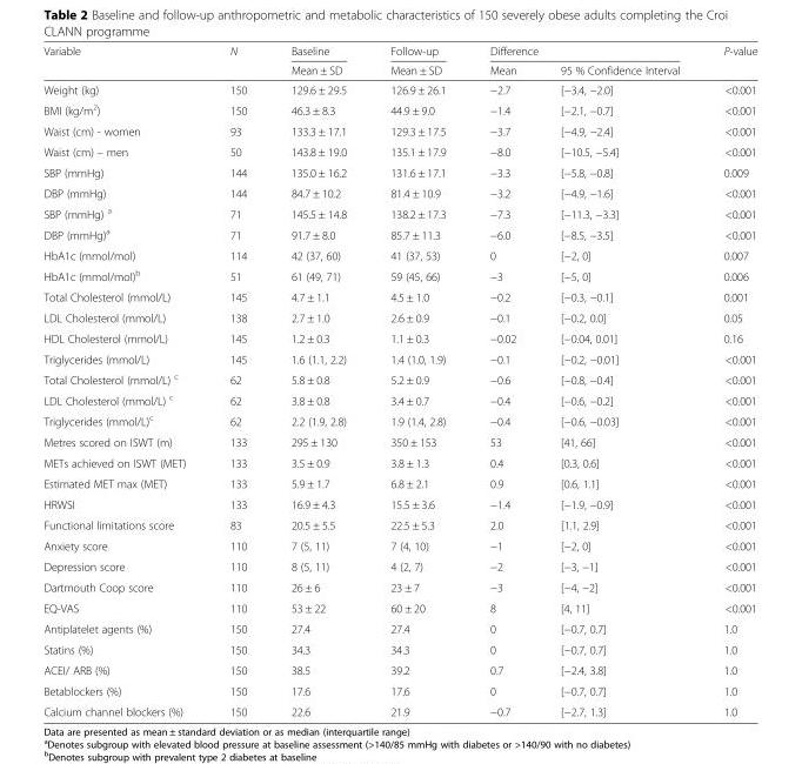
<table><thead><tr><td rowspan="2">Variable</td><td rowspan="2">N</td><td rowspan="2">Baseline Mean ± SD</td><td rowspan="2">Follow-up Mean ± SD</td><td colspan="2">Difference</td><td rowspan="2">P-value</td></tr><tr><td>Mean</td><td>95 % Confidence Interval</td></tr></thead><tbody><tr><td>Weight (kg)</td><td>150</td><td>129.6 ± 29.5</td><td>126.9 ± 26.1</td><td>−2.7</td><td>[−3.4, −2.0]</td><td>&lt;0.001</td></tr><tr><td>BMI (kg/m<sup>2</sup>)</td><td>150</td><td>46.3 ± 8.3</td><td>44.9 ± 9.0</td><td>−1.4</td><td>[−2.1, −0.7]</td><td>&lt;0.001</td></tr><tr><td>Waist (cm) - women</td><td>93</td><td>133.3 ± 17.1</td><td>129.3 ± 17.5</td><td>−3.7</td><td>[−4.9, −2.4]</td><td>&lt;0.001</td></tr><tr><td>Waist (cm) – men</td><td>50</td><td>143.8 ± 19.0</td><td>135.1 ± 17.9</td><td>−8.0</td><td>[−10.5, −5.4]</td><td>&lt;0.001</td></tr><tr><td>SBP (mmHg)</td><td>144</td><td>135.0 ± 16.2</td><td>131.6 ± 17.1</td><td>−3.3</td><td>[−5.8, −0.8]</td><td>0.009</td></tr><tr><td>DBP (mmHg)</td><td>144</td><td>84.7 ± 10.2</td><td>81.4 ± 10.9</td><td>−3.2</td><td>[−4.9, −1.6]</td><td>&lt;0.001</td></tr><tr><td>SBP (mmHg) <sup>a</sup></td><td>71</td><td>145.5 ± 14.8</td><td>138.2 ± 17.3</td><td>−7.3</td><td>[−11.3, −3.3]</td><td>&lt;0.001</td></tr><tr><td>DBP (mmHg)<sup>a</sup></td><td>71</td><td>91.7 ± 8.0</td><td>85.7 ± 11.3</td><td>−6.0</td><td>[−8.5, −3.5]</td><td>&lt;0.001</td></tr><tr><td>HbA1c (mmol/mol)</td><td>114</td><td>42 (37, 60)</td><td>41 (37, 53)</td><td>0</td><td>[−2, 0]</td><td>0.007</td></tr><tr><td>HbA1c (mmol/mol)<sup>b</sup></td><td>51</td><td>61 (49, 71)</td><td>59 (45, 66)</td><td>−3</td><td>[−5, 0]</td><td>0.006</td></tr><tr><td>Total Cholesterol (mmol/L)</td><td>145</td><td>4.7 ± 1.1</td><td>4.5 ± 1.0</td><td>−0.2</td><td>[−0.3, −0.1]</td><td>0.001</td></tr><tr><td>LDL Cholesterol (mmol/L)</td><td>138</td><td>2.7 ± 1.0</td><td>2.6 ± 0.9</td><td>−0.1</td><td>[−0.2, 0.0]</td><td>0.05</td></tr><tr><td>HDL Cholesterol (mmol/L)</td><td>145</td><td>1.2 ± 0.3</td><td>1.1 ± 0.3</td><td>−0.02</td><td>[−0.04, 0.01]</td><td>0.16</td></tr><tr><td>Triglycerides (mmol/L)</td><td>145</td><td>1.6 (1.1, 2.2)</td><td>1.4 (1.0, 1.9)</td><td>−0.1</td><td>[−0.2, −0.01]</td><td>&lt;0.001</td></tr><tr><td>Total Cholesterol (mmol/L) <sup>c</sup></td><td>62</td><td>5.8 ± 0.8</td><td>5.2 ± 0.9</td><td>−0.6</td><td>[−0.8, −0.4]</td><td>&lt;0.001</td></tr><tr><td>LDL Cholesterol (mmol/L) <sup>c</sup></td><td>62</td><td>3.8 ± 0.8</td><td>3.4 ± 0.7</td><td>−0.4</td><td>[−0.6, −0.2]</td><td>&lt;0.001</td></tr><tr><td>Triglycerides (mmol/L)<sup>c</sup></td><td>62</td><td>2.2 (1.9, 2.8)</td><td>1.9 (1.4, 2.8)</td><td>−0.4</td><td>[−0.6, −0.03]</td><td>&lt;0.001</td></tr><tr><td>Metres scored on ISWT (m)</td><td>133</td><td>295 ± 130</td><td>350 ± 153</td><td>53</td><td>[41, 66]</td><td>&lt;0.001</td></tr><tr><td>METs achieved on ISWT (MET)</td><td>133</td><td>3.5 ± 0.9</td><td>3.8 ± 1.3</td><td>0.4</td><td>[0.3, 0.6]</td><td>&lt;0.001</td></tr><tr><td>Estimated MET max (MET)</td><td>133</td><td>5.9 ± 1.7</td><td>6.8 ± 2.1</td><td>0.9</td><td>[0.6, 1.1]</td><td>&lt;0.001</td></tr><tr><td>HRWSI</td><td>133</td><td>16.9 ± 4.3</td><td>15.5 ± 3.6</td><td>−1.4</td><td>[−1.9, −0.9]</td><td>&lt;0.001</td></tr><tr><td>Functional limitations score</td><td>83</td><td>20.5 ± 5.5</td><td>22.5 ± 5.3</td><td>2.0</td><td>[1.1, 2.9]</td><td>&lt;0.001</td></tr><tr><td>Anxiety score</td><td>110</td><td>7 (5, 11)</td><td>7 (4, 10)</td><td>−1</td><td>[−2, 0]</td><td>&lt;0.001</td></tr><tr><td>Depression score</td><td>110</td><td>8 (5, 11)</td><td>4 (2, 7)</td><td>−2</td><td>[−3, −1]</td><td>&lt;0.001</td></tr><tr><td>Dartmouth Coop score</td><td>110</td><td>26 ± 6</td><td>23 ± 7</td><td>−3</td><td>[−4, −2]</td><td>&lt;0.001</td></tr><tr><td>EQ-VAS</td><td>110</td><td>53 ± 22</td><td>60 ± 20</td><td>8</td><td>[4, 11]</td><td>&lt;0.001</td></tr><tr><td>Antiplatelet agents (%)</td><td>150</td><td>27.4</td><td>27.4</td><td>0</td><td>[−0.7, 0.7]</td><td>1.0</td></tr><tr><td>Statins (%)</td><td>150</td><td>34.3</td><td>34.3</td><td>0</td><td>[−0.7, 0.7]</td><td>1.0</td></tr><tr><td>ACEI/ ARB (%)</td><td>150</td><td>38.5</td><td>39.2</td><td>0.7</td><td>[−2.4, 3.8]</td><td>1.0</td></tr><tr><td>Betablockers (%)</td><td>150</td><td>17.6</td><td>17.6</td><td>0</td><td>[−0.7, 0.7]</td><td>1.0</td></tr><tr><td>Calcium channel blockers (%)</td><td>150</td><td>22.6</td><td>21.9</td><td>−0.7</td><td>[−2.7, 1.3]</td><td>1.0</td></tr></tbody></table>